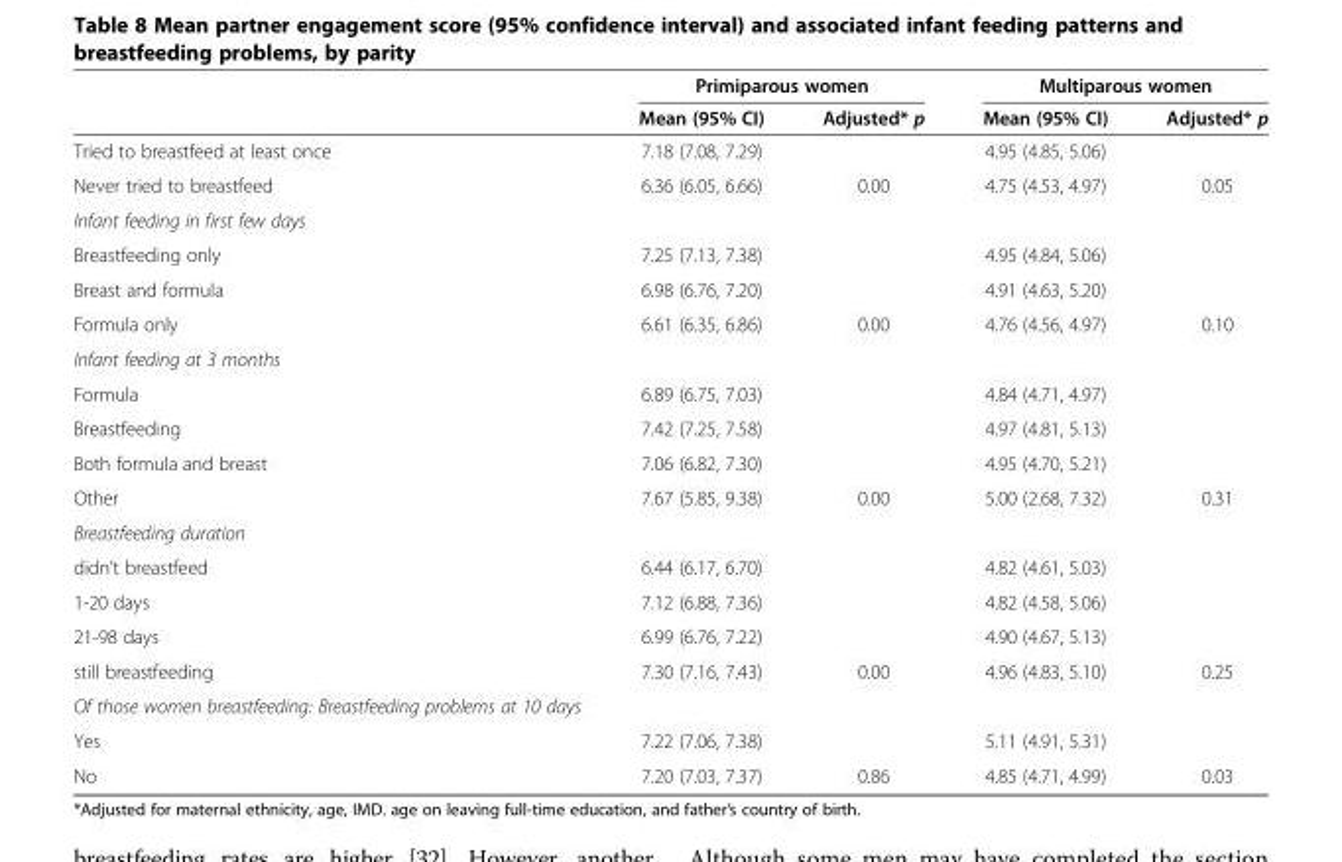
<table><thead><tr><td rowspan="2"></td><td colspan="2">Primiparous women</td><td colspan="2">Multiparous women</td></tr><tr><td>Mean (95% CI)</td><td>Adjusted* p</td><td>Mean (95% CI)</td><td>Adjusted* p</td></tr></thead><tbody><tr><td>Tried to breastfeed at least once</td><td>7.18 (7.08, 7.29)</td><td></td><td>4.95 (4.85, 5.06)</td><td></td></tr><tr><td>Never tried to breastfeed</td><td>6.36 (6.05, 6.66)</td><td>0.00</td><td>4.75 (4.53, 4.97)</td><td>0.05</td></tr><tr><td colspan="5">Infant feeding in first few days</td></tr><tr><td>Breastfeeding only</td><td>7.25 (7.13, 7.38)</td><td></td><td>4.95 (4.84, 5.06)</td><td></td></tr><tr><td>Breast and formula</td><td>6.98 (6.76, 7.20)</td><td></td><td>4.91 (4.63, 5.20)</td><td></td></tr><tr><td>Formula only</td><td>6.61 (6.35, 6.86)</td><td>0.00</td><td>4.76 (4.56, 4.97)</td><td>0.10</td></tr><tr><td colspan="5">Infant feeding at 3 months</td></tr><tr><td>Formula</td><td>6.89 (6.75, 7.03)</td><td></td><td>4.84 (4.71, 4.97)</td><td></td></tr><tr><td>Breastfeeding</td><td>7.42 (7.25, 7.58)</td><td></td><td>4.97 (4.81, 5.13)</td><td></td></tr><tr><td>Both formula and breast</td><td>7.06 (6.82, 7.30)</td><td></td><td>4.95 (4.70, 5.21)</td><td></td></tr><tr><td>Other</td><td>7.67 (5.85, 9.38)</td><td>0.00</td><td>5.00 (2.68, 7.32)</td><td>0.31</td></tr><tr><td colspan="5">Breastfeeding duration</td></tr><tr><td>didn’t breastfeed</td><td>6.44 (6.17, 6.70)</td><td></td><td>4.82 (4.61, 5.03)</td><td></td></tr><tr><td>1-20 days</td><td>7.12 (6.88, 7.36)</td><td></td><td>4.82 (4.58, 5.06)</td><td></td></tr><tr><td>21-98 days</td><td>6.99 (6.76, 7.22)</td><td></td><td>4.90 (4.67, 5.13)</td><td></td></tr><tr><td>still breastfeeding</td><td>7.30 (7.16, 7.43)</td><td>0.00</td><td>4.96 (4.83, 5.10)</td><td>0.25</td></tr><tr><td colspan="5">Of those women breastfeeding: Breastfeeding problems at 10 days</td></tr><tr><td>Yes</td><td>7.22 (7.06, 7.38)</td><td></td><td>5.11 (4.91, 5.31)</td><td></td></tr><tr><td>No</td><td>7.20 (7.03, 7.37)</td><td>0.86</td><td>4.85 (4.71, 4.99)</td><td>0.03</td></tr></tbody></table>